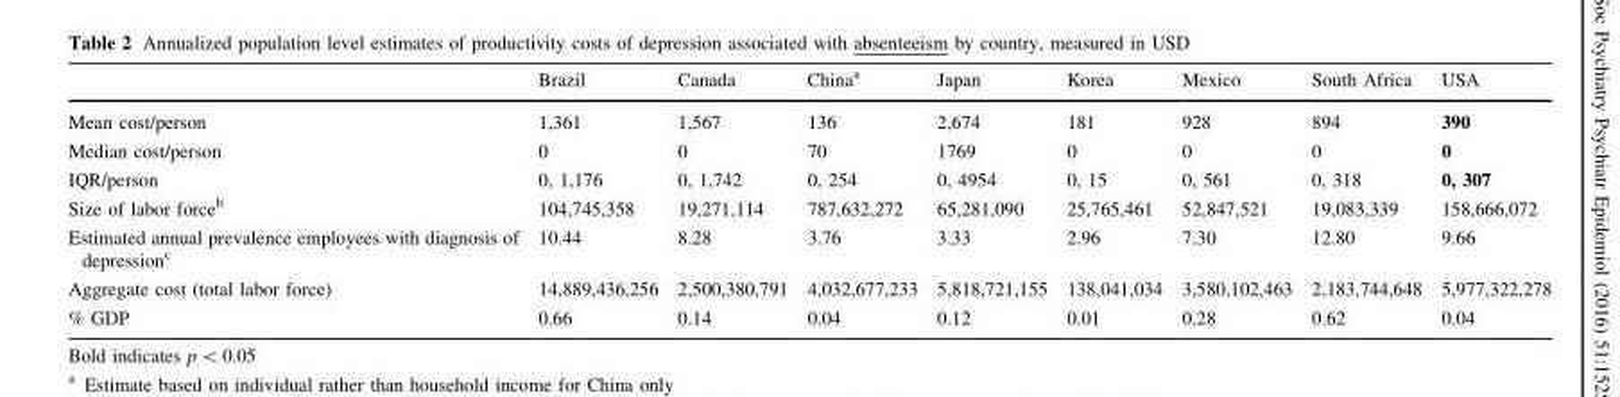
<table><thead><tr><td></td><td>Brazil</td><td>Canada</td><td>China<sup>a</sup></td><td>Japan</td><td>Korea</td><td>Mexico</td><td>South Africa</td><td>USA</td></tr></thead><tbody><tr><td>Mean cost/person</td><td>1,361</td><td>1,567</td><td>136</td><td>2,674</td><td>181</td><td>928</td><td>894</td><td>390</td></tr><tr><td>Median cost/person</td><td>0</td><td>0</td><td>70</td><td>1769</td><td>0</td><td>0</td><td>0</td><td>0</td></tr><tr><td>IQR/person</td><td>0, 1,176</td><td>0, 1,742</td><td>0, 254</td><td>0, 4954</td><td>0, 15</td><td>0, 561</td><td>0, 318</td><td>0, 307</td></tr><tr><td>Size of labor force<sup>b</sup></td><td>104,745,358</td><td>19,271,114</td><td>787,632,272</td><td>65,281,090</td><td>25,765,461</td><td>52,847,521</td><td>19,083,339</td><td>158,666,072</td></tr><tr><td>Estimated annual prevalence employees with diagnosis of depression<sup>c</sup></td><td>10.44</td><td>8.28</td><td>3.76</td><td>3.33</td><td>2.96</td><td>7.30</td><td>12.80</td><td>9.66</td></tr><tr><td>Aggregate cost (total labor force)</td><td>14,889,436,256</td><td>2,500,380,791</td><td>4,032,677,233</td><td>5,818,721,155</td><td>138,041,034</td><td>3,580,102,463</td><td>2,183,744,648</td><td>5,977,322,278</td></tr><tr><td>% GDP</td><td>0.66</td><td>0.14</td><td>0.04</td><td>0.12</td><td>0.01</td><td>0.28</td><td>0.62</td><td>0.04</td></tr></tbody></table>